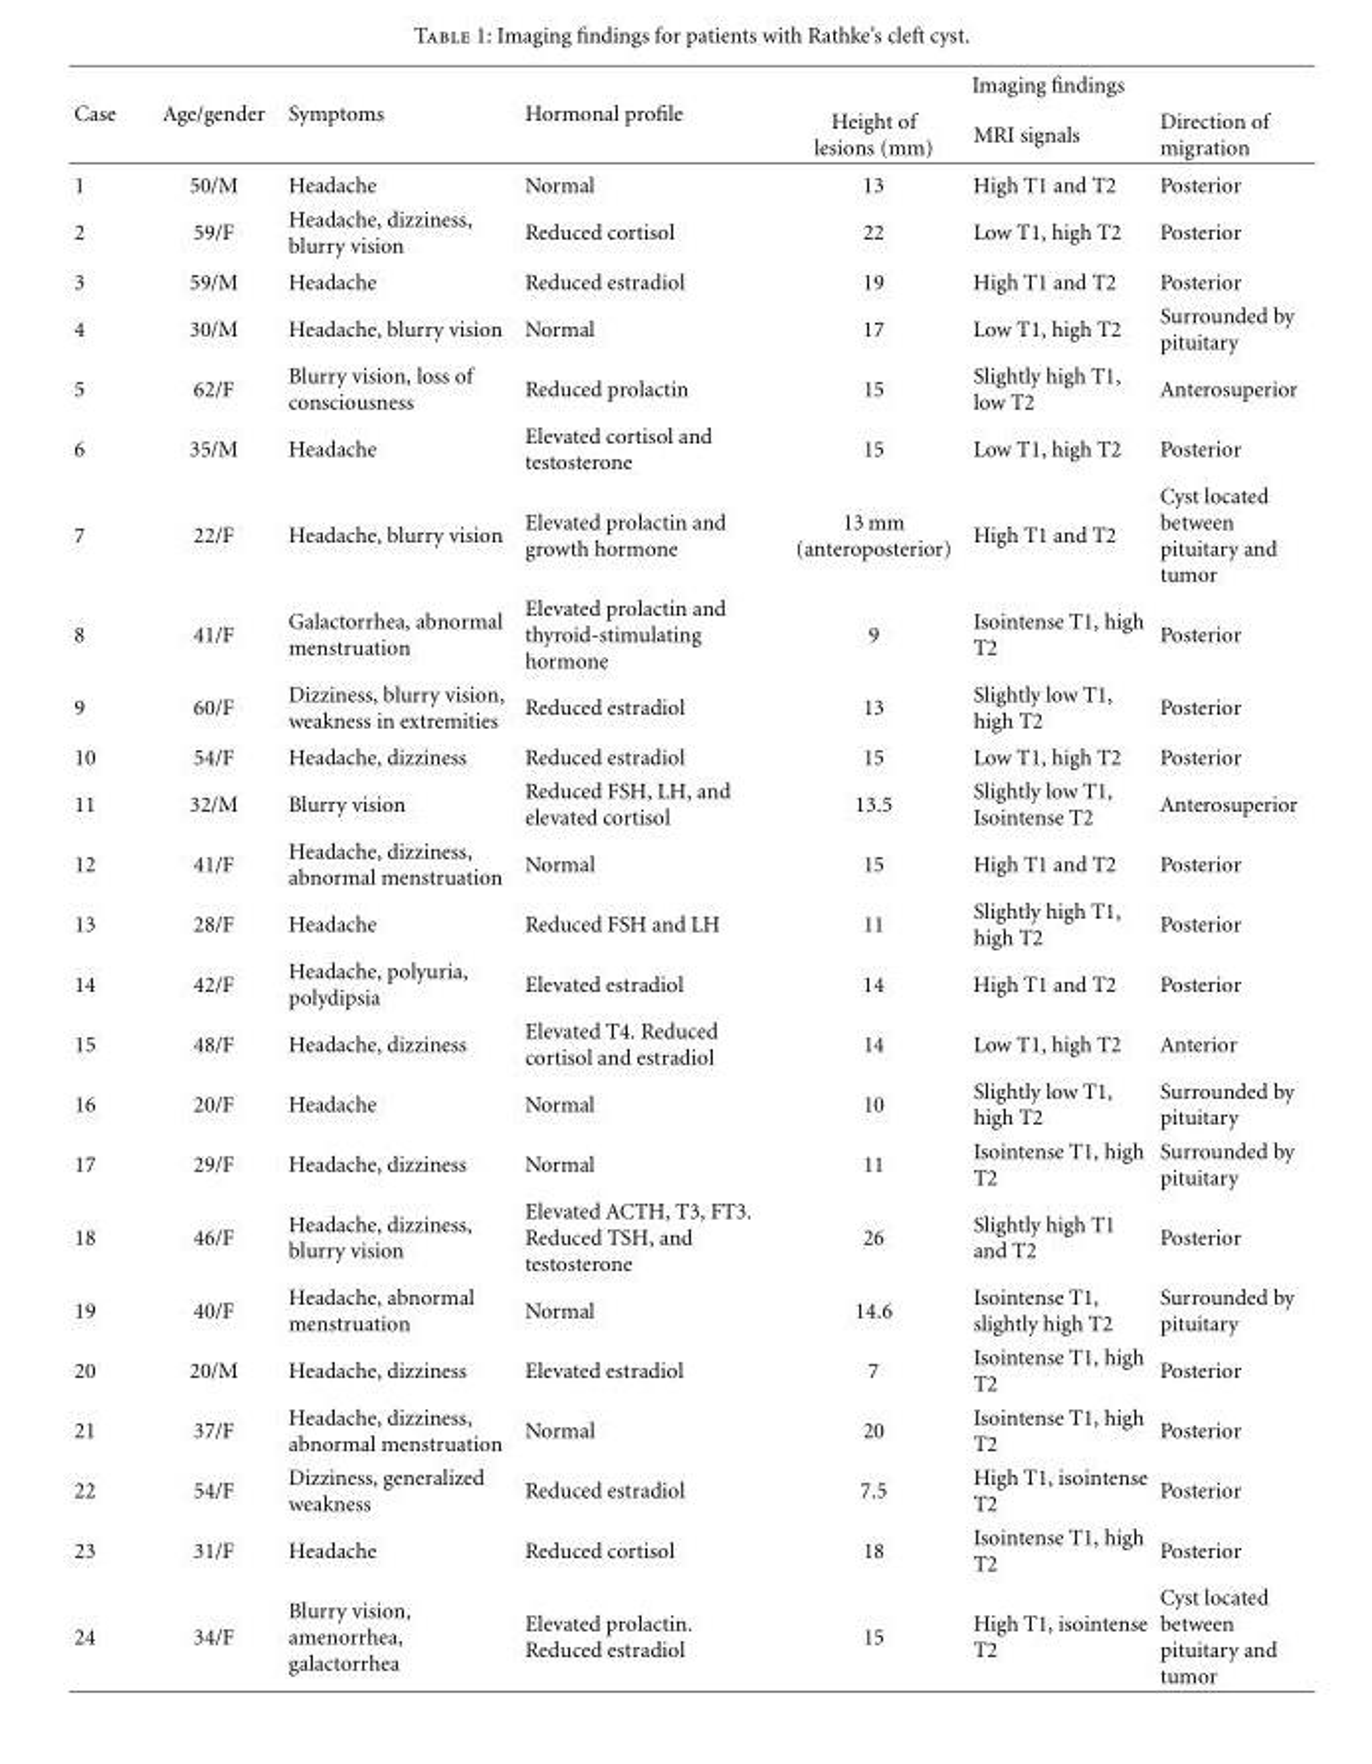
<table><thead><tr><td rowspan="2">Case</td><td rowspan="2">Age/gender</td><td rowspan="2">Symptoms</td><td rowspan="2">Hormonal profile</td><td colspan="3">Imaging findings</td></tr><tr><td>Height of lesions (mm)</td><td>MRI signals</td><td>Direction of migration</td></tr></thead><tbody><tr><td>1</td><td>50/M</td><td>Headache</td><td>Normal</td><td>13</td><td>High T1 and T2</td><td>Posterior</td></tr><tr><td>2</td><td>59/F</td><td>Headache, dizziness, blurry vision</td><td>Reduced cortisol</td><td>22</td><td>Low T1, high T2</td><td>Posterior</td></tr><tr><td>3</td><td>59/M</td><td>Headache</td><td>Reduced estradiol</td><td>19</td><td>High T1 and T2</td><td>Posterior</td></tr><tr><td>4</td><td>30/M</td><td>Headache, blurry vision</td><td>Normal</td><td>17</td><td>Low T1, high T2</td><td>Surrounded by pituitary</td></tr><tr><td>5</td><td>62/F</td><td>Blurry vision, loss of consciousness</td><td>Reduced prolactin</td><td>15</td><td>Slightly high T1, low T2</td><td>Anterosuperior</td></tr><tr><td>6</td><td>35/M</td><td>Headache</td><td>Elevated cortisol and testosterone</td><td>15</td><td>Low T1, high T2</td><td>Posterior</td></tr><tr><td>7</td><td>22/F</td><td>Headache, blurry vision</td><td>Elevated prolactin and growth hormone</td><td>13 mm (anteroposterior)</td><td>High T1 and T2</td><td>Cyst located between pituitary and tumor</td></tr><tr><td>8</td><td>41/F</td><td>Galactorrhea, abnormal menstruation</td><td>Elevated prolactin and thyroid-stimulating hormone</td><td>9</td><td>Isointense T1, high T2</td><td>Posterior</td></tr><tr><td>9</td><td>60/F</td><td>Dizziness, blurry vision, weakness in extremities</td><td>Reduced estradiol</td><td>13</td><td>Slightly low T1, high T2</td><td>Posterior</td></tr><tr><td>10</td><td>54/F</td><td>Headache, dizziness</td><td>Reduced estradiol</td><td>15</td><td>Low T1, high T2</td><td>Posterior</td></tr><tr><td>11</td><td>32/M</td><td>Blurry vision</td><td>Reduced FSH, LH, and elevated cortisol</td><td>13.5</td><td>Slightly low T1, Isointense T2</td><td>Anterosuperior</td></tr><tr><td>12</td><td>41/F</td><td>Headache, dizziness, abnormal menstruation</td><td>Normal</td><td>15</td><td>High T1 and T2</td><td>Posterior</td></tr><tr><td>13</td><td>28/F</td><td>Headache</td><td>Reduced FSH and LH</td><td>11</td><td>Slightly high T1, high T2</td><td>Posterior</td></tr><tr><td>14</td><td>42/F</td><td>Headache, polyuria, polydipsia</td><td>Elevated estradiol</td><td>14</td><td>High T1 and T2</td><td>Posterior</td></tr><tr><td>15</td><td>48/F</td><td>Headache, dizziness</td><td>Elevated T4. Reduced cortisol and estradiol</td><td>14</td><td>Low T1, high T2</td><td>Anterior</td></tr><tr><td>16</td><td>20/F</td><td>Headache</td><td>Normal</td><td>10</td><td>Slightly low T1, high T2</td><td>Surrounded by pituitary</td></tr><tr><td>17</td><td>29/F</td><td>Headache, dizziness</td><td>Normal</td><td>11</td><td>Isointense T1, high T2</td><td>Surrounded by pituitary</td></tr><tr><td>18</td><td>46/F</td><td>Headache, dizziness, blurry vision</td><td>Elevated ACTH, T3, FT3. Reduced TSH, and testosterone</td><td>26</td><td>Slightly high T1 and T2</td><td>Posterior</td></tr><tr><td>19</td><td>40/F</td><td>Headache, abnormal menstruation</td><td>Normal</td><td>14.6</td><td>Isointense T1, slightly high T2</td><td>Surrounded by pituitary</td></tr><tr><td>20</td><td>20/M</td><td>Headache, dizziness</td><td>Elevated estradiol</td><td>7</td><td>Isointense T1, high T2</td><td>Posterior</td></tr><tr><td>21</td><td>37/F</td><td>Headache, dizziness, abnormal menstruation</td><td>Normal</td><td>20</td><td>Isointense T1, high T2</td><td>Posterior</td></tr><tr><td>22</td><td>54/F</td><td>Dizziness, generalized weakness</td><td>Reduced estradiol</td><td>7.5</td><td>High T1, isointense T2</td><td>Posterior</td></tr><tr><td>23</td><td>31/F</td><td>Headache</td><td>Reduced cortisol</td><td>18</td><td>Isointense T1, high T2</td><td>Posterior</td></tr><tr><td>24</td><td>34/F</td><td>Blurry vision, amenorrhea, galactorrhea</td><td>Elevated prolactin. Reduced estradiol</td><td>15</td><td>High T1, isointense T2</td><td>Cyst located between pituitary and tumor</td></tr></tbody></table>